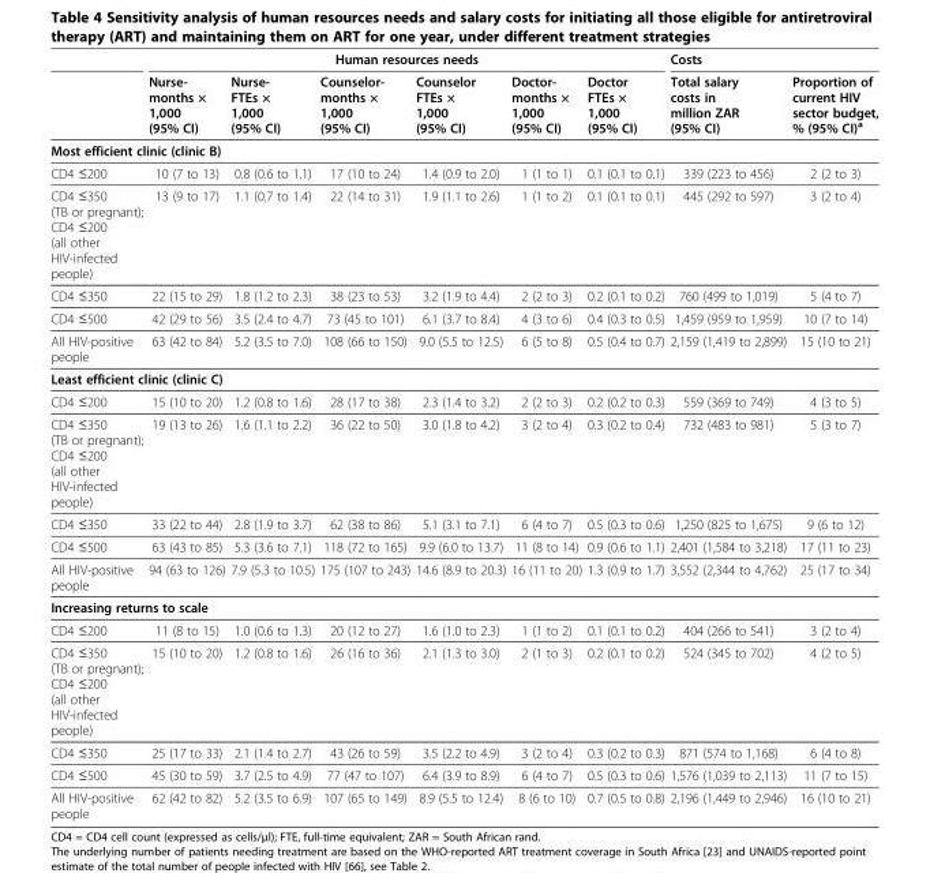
<table><thead><tr><td rowspan="2"></td><td colspan="6">Human resources needs</td><td colspan="2">Costs</td></tr><tr><td>Nurse- months × 1,000 (95% CI)</td><td>Nurse- FTEs × 1,000 (95% CI)</td><td>Counselor- months × 1,000 (95% CI)</td><td>Counselor FTEs × 1,000 (95% CI)</td><td>Doctor- months × 1,000 (95% CI)</td><td>Doctor FTEs × 1,000 (95% CI)</td><td>Total salary costs in million ZAR (95% CI)</td><td>Proportion of current HIV sector budget, % (95% CI)<sup>a</sup></td></tr></thead><tbody><tr><td colspan="9">Most efficient clinic (clinic B)</td></tr><tr><td>CD4 ≤200</td><td>10 (7 to 13)</td><td>0.8 (0.6 to 1.1)</td><td>17 (10 to 24)</td><td>1.4 (0.9 to 2.0)</td><td>1 (1 to 1)</td><td>0.1 (0.1 to 0.1)</td><td>339 (223 to 456)</td><td>2 (2 to 3)</td></tr><tr><td>CD4 ≤350 (TB or pregnant); CD4 ≤200 (all other HIV-infected people)</td><td>13 (9 to 17)</td><td>1.1 (0.7 to 1.4)</td><td>22 (14 to 31)</td><td>1.9 (1.1 to 2.6)</td><td>1 (1 to 2)</td><td>0.1 (0.1 to 0.1)</td><td>445 (292 to 597)</td><td>3 (2 to 4)</td></tr><tr><td>CD4 ≤350</td><td>22 (15 to 29)</td><td>1.8 (1.2 to 2.3)</td><td>38 (23 to 53)</td><td>3.2 (1.9 to 4.4)</td><td>2 (2 to 3)</td><td>0.2 (0.1 to 0.2)</td><td>760 (499 to 1,019)</td><td>5 (4 to 7)</td></tr><tr><td>CD4 ≤500</td><td>42 (29 to 56)</td><td>3.5 (2.4 to 4.7)</td><td>73 (45 to 101)</td><td>6.1 (3.7 to 8.4)</td><td>4 (3 to 6)</td><td>0.4 (0.3 to 0.5)</td><td>1,459 (959 to 1,959)</td><td>10 (7 to 14)</td></tr><tr><td>All HIV-positive people</td><td>63 (42 to 84)</td><td>5.2 (3.5 to 7.0)</td><td>108 (66 to 150)</td><td>9.0 (5.5 to 12.5)</td><td>6 (5 to 8)</td><td>0.5 (0.4 to 0.7)</td><td>2,159 (1,419 to 2,899)</td><td>15 (10 to 21)</td></tr><tr><td colspan="9">Least efficient clinic (clinic C)</td></tr><tr><td>CD4 ≤200</td><td>15 (10 to 20)</td><td>1.2 (0.8 to 1.6)</td><td>28 (17 to 38)</td><td>2.3 (1.4 to 3.2)</td><td>2 (2 to 3)</td><td>0.2 (0.2 to 0.3)</td><td>559 (369 to 749)</td><td>4 (3 to 5)</td></tr><tr><td>CD4 ≤350 (TB or pregnant); CD4 ≤200 (all other HIV-infected people)</td><td>19 (13 to 26)</td><td>1.6 (1.1 to 2.2)</td><td>36 (22 to 50)</td><td>3.0 (1.8 to 4.2)</td><td>3 (2 to 4)</td><td>0.3 (0.2 to 0.4)</td><td>732 (483 to 981)</td><td>5 (3 to 7)</td></tr><tr><td>CD4 ≤350</td><td>33 (22 to 44)</td><td>2.8 (1.9 to 3.7)</td><td>62 (38 to 86)</td><td>5.1 (3.1 to 7.1)</td><td>6 (4 to 7)</td><td>0.5 (0.3 to 0.6)</td><td>1,250 (825 to 1,675)</td><td>9 (6 to 12)</td></tr><tr><td>CD4 ≤500</td><td>63 (43 to 85)</td><td>5.3 (3.6 to 7.1)</td><td>118 (72 to 165)</td><td>9.9 (6.0 to 13.7)</td><td>11 (8 to 14)</td><td>0.9 (0.6 to 1.1)</td><td>2,401 (1,584 to 3,218)</td><td>17 (11 to 23)</td></tr><tr><td>All HIV-positive people</td><td>94 (63 to 126)</td><td>7.9 (5.3 to 10.5)</td><td>175 (107 to 243)</td><td>14.6 (8.9 to 20.3)</td><td>16 (11 to 20)</td><td>1.3 (0.9 to 1.7)</td><td>3,552 (2,344 to 4,762)</td><td>25 (17 to 34)</td></tr><tr><td colspan="9">Increasing returns to scale</td></tr><tr><td>CD4 ≤200</td><td>11 (8 to 15)</td><td>1.0 (0.6 to 1.3)</td><td>20 (12 to 27)</td><td>1.6 (1.0 to 2.3)</td><td>1 (1 to 2)</td><td>0.1 (0.1 to 0.2)</td><td>404 (266 to 541)</td><td>3 (2 to 4)</td></tr><tr><td>CD4 ≤350 (TB or pregnant); CD4 ≤200 (all other HIV-infected people)</td><td>15 (10 to 20)</td><td>1.2 (0.8 to 1.6)</td><td>26 (16 to 36)</td><td>2.1 (1.3 to 3.0)</td><td>2 (1 to 3)</td><td>0.2 (0.1 to 0.2)</td><td>524 (345 to 702)</td><td>4 (2 to 5)</td></tr><tr><td>CD4 ≤350</td><td>25 (17 to 33)</td><td>2.1 (1.4 to 2.7)</td><td>43 (26 to 59)</td><td>3.5 (2.2 to 4.9)</td><td>3 (2 to 4)</td><td>0.3 (0.2 to 0.3)</td><td>871 (574 to 1,168)</td><td>6 (4 to 8)</td></tr><tr><td>CD4 ≤500</td><td>45 (30 to 59)</td><td>3.7 (2.5 to 4.9)</td><td>77 (47 to 107)</td><td>6.4 (3.9 to 8.9)</td><td>6 (4 to 7)</td><td>0.5 (0.3 to 0.6)</td><td>1,576 (1,039 to 2,113)</td><td>11 (7 to 15)</td></tr><tr><td>All HIV-positive people</td><td>62 (42 to 82)</td><td>5.2 (3.5 to 6.9)</td><td>107 (65 to 149)</td><td>8.9 (5.5 to 12.4)</td><td>8 (6 to 10)</td><td>0.7 (0.5 to 0.8)</td><td>2,196 (1,449 to 2,946)</td><td>16 (10 to 21)</td></tr></tbody></table>